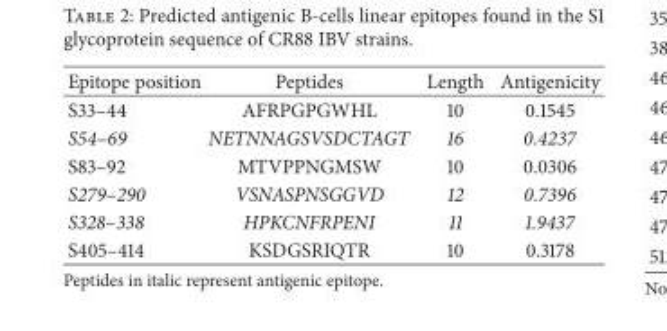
<table><thead><tr><td>Epitope position</td><td>Peptides</td><td>Length</td><td>Antigenicity</td></tr></thead><tbody><tr><td>S33–44</td><td>AFRPGPGWHL</td><td>10</td><td>0.1545</td></tr><tr><td>S54–69</td><td>NETNNAGSVSDCTAGT</td><td>16</td><td>0.4237</td></tr><tr><td>S83–92</td><td>MTVPPNGMSW</td><td>10</td><td>0.0306</td></tr><tr><td>S279–290</td><td>VSNASPNSGGVD</td><td>12</td><td>0.7396</td></tr><tr><td>S328–338</td><td>HPKCNFRPENI</td><td>11</td><td>1.9437</td></tr><tr><td>S405–414</td><td>KSDGSRIQTR</td><td>10</td><td>0.3178</td></tr></tbody></table>